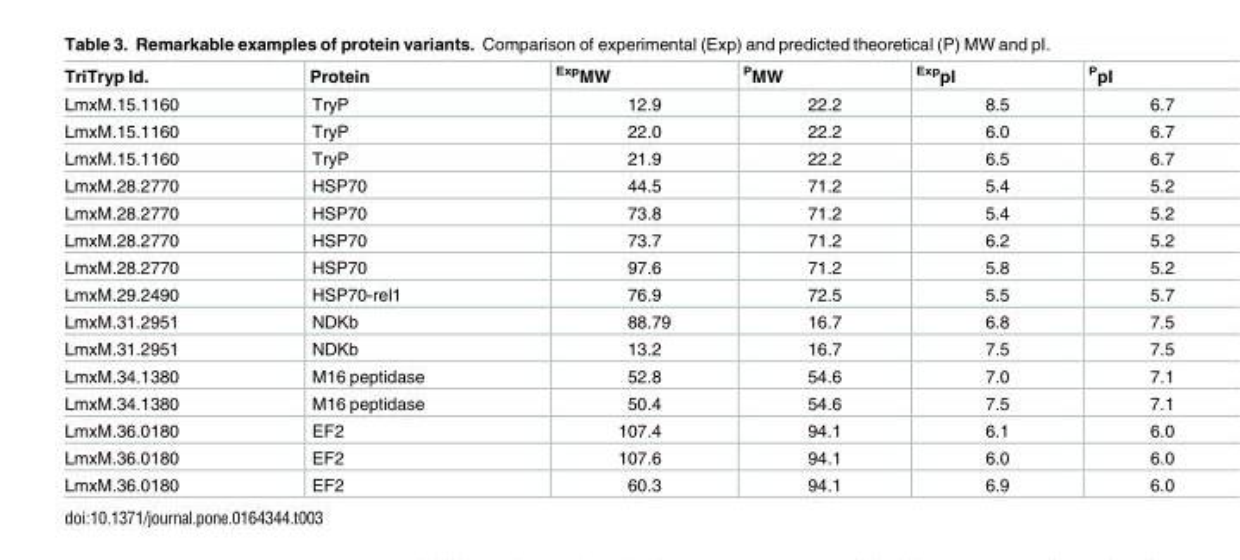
<table><thead><tr><td>TriTryp Id.</td><td>Protein</td><td><sup>Exp</sup>MW</td><td><sup>P</sup>MW</td><td><sup>Exp</sup>pI</td><td><sup>P</sup>pI</td></tr></thead><tbody><tr><td>LmxM.15.1160</td><td>TryP</td><td>12.9</td><td>22.2</td><td>8.5</td><td>6.7</td></tr><tr><td>LmxM.15.1160</td><td>TryP</td><td>22.0</td><td>22.2</td><td>6.0</td><td>6.7</td></tr><tr><td>LmxM.15.1160</td><td>TryP</td><td>21.9</td><td>22.2</td><td>6.5</td><td>6.7</td></tr><tr><td>LmxM.28.2770</td><td>HSP70</td><td>44.5</td><td>71.2</td><td>5.4</td><td>5.2</td></tr><tr><td>LmxM.28.2770</td><td>HSP70</td><td>73.8</td><td>71.2</td><td>5.4</td><td>5.2</td></tr><tr><td>LmxM.28.2770</td><td>HSP70</td><td>73.7</td><td>71.2</td><td>6.2</td><td>5.2</td></tr><tr><td>LmxM.28.2770</td><td>HSP70</td><td>97.6</td><td>71.2</td><td>5.8</td><td>5.2</td></tr><tr><td>LmxM.29.2490</td><td>HSP70-rel1</td><td>76.9</td><td>72.5</td><td>5.5</td><td>5.7</td></tr><tr><td>LmxM.31.2951</td><td>NDKb</td><td>88.79</td><td>16.7</td><td>6.8</td><td>7.5</td></tr><tr><td>LmxM.31.2951</td><td>NDKb</td><td>13.2</td><td>16.7</td><td>7.5</td><td>7.5</td></tr><tr><td>LmxM.34.1380</td><td>M16 peptidase</td><td>52.8</td><td>54.6</td><td>7.0</td><td>7.1</td></tr><tr><td>LmxM.34.1380</td><td>M16 peptidase</td><td>50.4</td><td>54.6</td><td>7.5</td><td>7.1</td></tr><tr><td>LmxM.36.0180</td><td>EF2</td><td>107.4</td><td>94.1</td><td>6.1</td><td>6.0</td></tr><tr><td>LmxM.36.0180</td><td>EF2</td><td>107.6</td><td>94.1</td><td>6.0</td><td>6.0</td></tr><tr><td>LmxM.36.0180</td><td>EF2</td><td>60.3</td><td>94.1</td><td>6.9</td><td>6.0</td></tr></tbody></table>